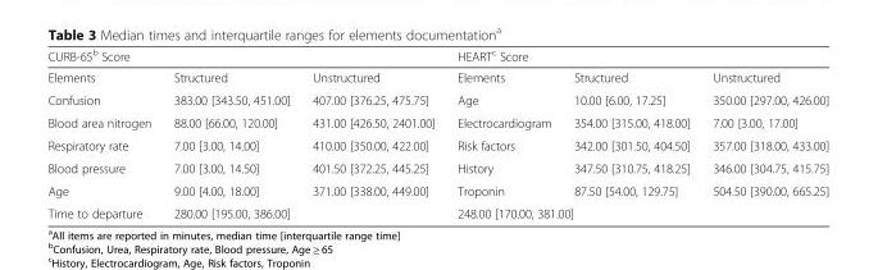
<table><thead><tr><td colspan="3">CURB-65<sup>b</sup> Score</td><td colspan="3">HEART<sup>c</sup> Score</td></tr><tr><td>Elements</td><td>Structured</td><td>Unstructured</td><td>Elements</td><td>Structured</td><td>Unstructured</td></tr></thead><tbody><tr><td>Confusion</td><td>383.00 [343.50, 451.00]</td><td>407.00 [376.25, 475.75]</td><td>Age</td><td>10.00 [6.00, 17.25]</td><td>350.00 [297.00, 426.00]</td></tr><tr><td>Blood area nitrogen</td><td>88.00 [66.00, 120.00]</td><td>431.00 [426.50, 2401.00]</td><td>Electrocardiogram</td><td>354.00 [315.00, 418.00]</td><td>7.00 [3.00, 17.00]</td></tr><tr><td>Respiratory rate</td><td>7.00 [3.00, 14.00]</td><td>410.00 [350.00, 422.00]</td><td>Risk factors</td><td>342.00 [301.50, 404.50]</td><td>357.00 [318.00, 433.00]</td></tr><tr><td>Blood pressure</td><td>7.00 [3.00, 14.50]</td><td>401.50 [372.25, 445.25]</td><td>History</td><td>347.50 [310.75, 418.25]</td><td>346.00 [304.75, 415.75]</td></tr><tr><td>Age</td><td>9.00 [4.00, 18.00]</td><td>371.00 [338.00, 449.00]</td><td>Troponin</td><td>87.50 [54.00, 129.75]</td><td>504.50 [390.00, 665.25]</td></tr><tr><td>Time to departure</td><td colspan="2">280.00 [195.00, 386.00]</td><td colspan="3">248.00 [170.00, 381.00]</td></tr></tbody></table>